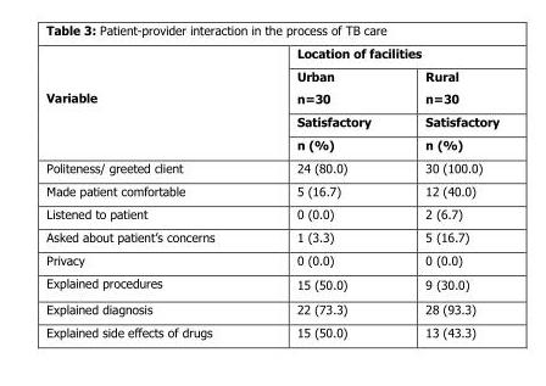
<table><thead><tr><td rowspan="4">Variable</td><td colspan="2">Location of facilities</td></tr><tr><td rowspan="3">Urban n=30 Satisfactory n (%)</td><td rowspan="3">Rural n=30 Satisfactory n (%)</td></tr><tr></tr><tr></tr></thead><tbody><tr><td>Politeness/ greeted client</td><td>24 (80.0)</td><td>30 (100.0)</td></tr><tr><td>Made patient comfortable</td><td>5 (16.7)</td><td>12 (40.0)</td></tr><tr><td>Listened to patient</td><td>0 (0.0)</td><td>2 (6.7)</td></tr><tr><td>Asked about patient’s concerns</td><td>1 (3.3)</td><td>5 (16.7)</td></tr><tr><td>Privacy</td><td>0 (0.0)</td><td>0 (0.0)</td></tr><tr><td>Explained procedures</td><td>15 (50.0)</td><td>9 (30.0)</td></tr><tr><td>Explained diagnosis</td><td>22 (73.3)</td><td>28 (93.3)</td></tr><tr><td>Explained side effects of drugs</td><td>15 (50.0)</td><td>13 (43.3)</td></tr></tbody></table>